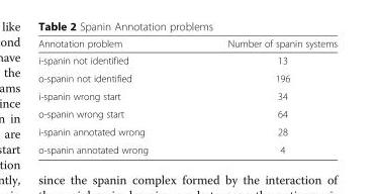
<table><thead><tr><td>Annotation problem</td><td>Number of spanin systems</td></tr></thead><tbody><tr><td>i-spanin not identified</td><td>13</td></tr><tr><td>o-spanin not identified</td><td>196</td></tr><tr><td>i-spanin wrong start</td><td>34</td></tr><tr><td>o-spanin wrong start</td><td>64</td></tr><tr><td>i-spanin annotated wrong</td><td>28</td></tr><tr><td>o-spanin annotated wrong</td><td>4</td></tr></tbody></table>